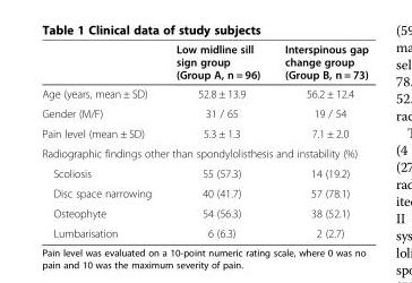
<table><thead><tr><td></td><td>Low midline sill sign group (Group A, n = 96)</td><td>Interspinous gap change group (Group B, n = 73)</td></tr></thead><tbody><tr><td>Age (years, mean ± SD)</td><td>52.8 ± 13.9</td><td>56.2 ± 12.4</td></tr><tr><td>Gender (M/F)</td><td>31 / 65</td><td>19 / 54</td></tr><tr><td>Pain level (mean ± SD)</td><td>5.3 ± 1.3</td><td>7.1 ± 2.0</td></tr><tr><td colspan="3">Radiographic findings other than spondylolisthesis and instability (%)</td></tr><tr><td>Scoliosis</td><td>55 (57.3)</td><td>14 (19.2)</td></tr><tr><td>Disc space narrowing</td><td>40 (41.7)</td><td>57 (78.1)</td></tr><tr><td>Osteophyte</td><td>54 (56.3)</td><td>38 (52.1)</td></tr><tr><td>Lumbarisation</td><td>6 (6.3)</td><td>2 (2.7)</td></tr></tbody></table>